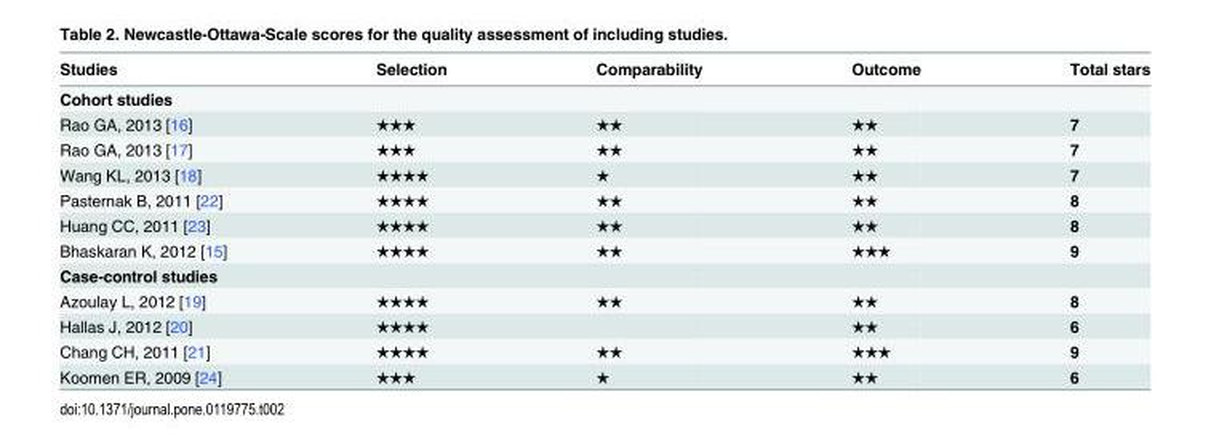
<table><thead><tr><td>Studies</td><td>Selection</td><td>Comparability</td><td>Outcome</td><td>Total stars</td></tr></thead><tbody><tr><td colspan="5">Cohort studies</td></tr><tr><td>Rao GA, 2013 [16]</td><td>★★★</td><td>★★</td><td>★★</td><td>7</td></tr><tr><td>Rao GA, 2013 [17]</td><td>★★★</td><td>★★</td><td>★★</td><td>7</td></tr><tr><td>Wang KL, 2013 [18]</td><td>★★★★</td><td>★</td><td>★★</td><td>7</td></tr><tr><td>Pasternak B, 2011 [22]</td><td>★★★★</td><td>★★</td><td>★★</td><td>8</td></tr><tr><td>Huang CC, 2011 [23]</td><td>★★★★</td><td>★★</td><td>★★</td><td>8</td></tr><tr><td>Bhaskaran K, 2012 [15]</td><td>★★★★</td><td>★★</td><td>★★★</td><td>9</td></tr><tr><td colspan="5">Case-control studies</td></tr><tr><td>Azoulay L, 2012 [19]</td><td>★★★★</td><td>★★</td><td>★★</td><td>8</td></tr><tr><td>Hallas J, 2012 [20]</td><td>★★★★</td><td></td><td>★★</td><td>6</td></tr><tr><td>Chang CH, 2011 [21]</td><td>★★★★</td><td>★★</td><td>★★★</td><td>9</td></tr><tr><td>Koomen ER, 2009 [24]</td><td>★★★</td><td>★</td><td>★★</td><td>6</td></tr></tbody></table>